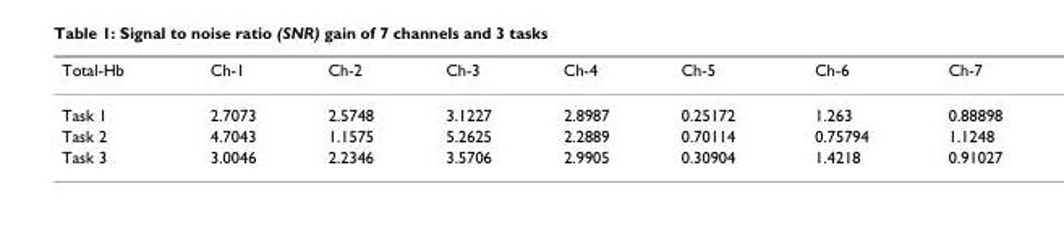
<table><thead><tr><td>Total-Hb</td><td>Ch-1</td><td>Ch-2</td><td>Ch-3</td><td>Ch-4</td><td>Ch-5</td><td>Ch-6</td><td>Ch-7</td></tr></thead><tbody><tr><td>Task 1</td><td>2.7073</td><td>2.5748</td><td>3.1227</td><td>2.8987</td><td>0.25172</td><td>1.263</td><td>0.88898</td></tr><tr><td>Task 2</td><td>4.7043</td><td>1.1575</td><td>5.2625</td><td>2.2889</td><td>0.70114</td><td>0.75794</td><td>1.1248</td></tr><tr><td>Task 3</td><td>3.0046</td><td>2.2346</td><td>3.5706</td><td>2.9905</td><td>0.30904</td><td>1.4218</td><td>0.91027</td></tr></tbody></table>